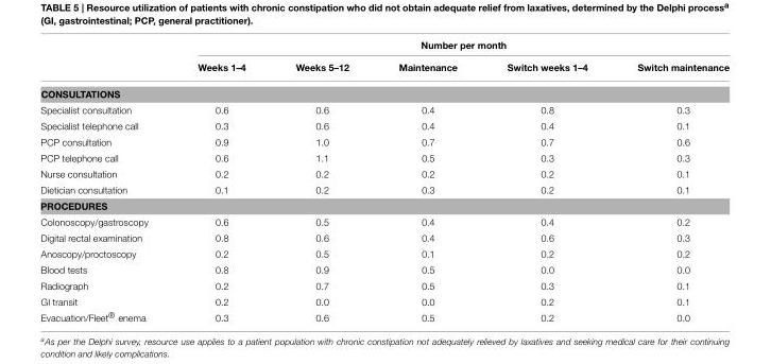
<table><thead><tr><td rowspan="2"></td><td colspan="5">Number per month</td></tr><tr><td>Weeks 1–4</td><td>Weeks 5–12</td><td>Maintenance</td><td>Switch weeks 1–4</td><td>Switch maintenance</td></tr></thead><tbody><tr><td colspan="6">CONSULTATIONS</td></tr><tr><td>Specialist consultation</td><td>0.6</td><td>0.6</td><td>0.4</td><td>0.8</td><td>0.3</td></tr><tr><td>Specialist telephone call</td><td>0.3</td><td>0.6</td><td>0.4</td><td>0.4</td><td>0.1</td></tr><tr><td>PCP consultation</td><td>0.9</td><td>1.0</td><td>0.7</td><td>0.7</td><td>0.6</td></tr><tr><td>PCP telephone call</td><td>0.6</td><td>1.1</td><td>0.5</td><td>0.3</td><td>0.3</td></tr><tr><td>Nurse consultation</td><td>0.2</td><td>0.2</td><td>0.2</td><td>0.2</td><td>0.1</td></tr><tr><td>Dietician consultation</td><td>0.1</td><td>0.2</td><td>0.3</td><td>0.2</td><td>0.1</td></tr><tr><td colspan="6">PROCEDURES</td></tr><tr><td>Colonoscopy/gastroscopy</td><td>0.6</td><td>0.5</td><td>0.4</td><td>0.4</td><td>0.2</td></tr><tr><td>Digital rectal examination</td><td>0.8</td><td>0.6</td><td>0.4</td><td>0.6</td><td>0.3</td></tr><tr><td>Anoscopy/proctoscopy</td><td>0.2</td><td>0.5</td><td>0.1</td><td>0.2</td><td>0.2</td></tr><tr><td>Blood tests</td><td>0.8</td><td>0.9</td><td>0.5</td><td>0.0</td><td>0.0</td></tr><tr><td>Radiograph</td><td>0.2</td><td>0.7</td><td>0.5</td><td>0.3</td><td>0.1</td></tr><tr><td>GI transit</td><td>0.2</td><td>0.0</td><td>0.0</td><td>0.2</td><td>0.1</td></tr><tr><td>Evacuation/Fleet® enema</td><td>0.3</td><td>0.6</td><td>0.5</td><td>0.2</td><td>0.0</td></tr></tbody></table>